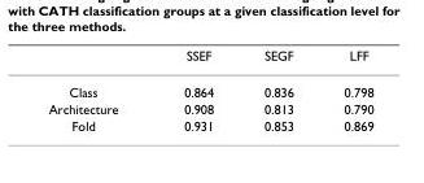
<table><thead><tr><td></td><td>SSEF</td><td>SEGF</td><td>LFF</td></tr></thead><tbody><tr><td>Class</td><td>0.864</td><td>0.836</td><td>0.798</td></tr><tr><td>Architecture</td><td>0.908</td><td>0.813</td><td>0.790</td></tr><tr><td>Fold</td><td>0.931</td><td>0.853</td><td>0.869</td></tr></tbody></table>